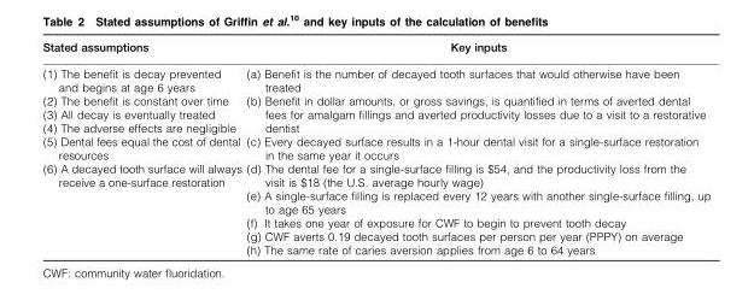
<table><thead><tr><td>Stated assumptions</td><td>Key inputs</td></tr></thead><tbody><tr><td>(1) The benefit is decay prevented and begins at age 6 years</td><td>(a) Benefit is the number of decayed tooth surfaces that would otherwise have been treated</td></tr><tr><td rowspan="2">(2) The benefit is constant over time (3) All decay is eventually treated (4) The adverse effects are negligible (5) Dental fees equal the cost of dental resources (6) A decayed tooth surface will always receive a one-surface restoration</td><td>(b) Benefit in dollar amounts, or gross savings, is quantified in terms of averted dental fees for amalgam fillings and averted productivity losses due to a visit to a restorative dentist (c) Every decayed surface results in a 1-hour dental visit for a single-surface restoration in the same year it occurs (d) The dental fee for a single-surface filling is $54, and the productivity loss from the visit is $18 (the U.S. average hourly wage) (e) A single-surface filling is replaced every 12 years with another single-surface filling, up to age 65 years (f) It takes one year of exposure for CWF to begin to prevent tooth decay (g) CWF averts 0.19 decayed tooth surfaces per person per year (PPPY) on average</td></tr><tr><td>(h) The same rate of caries aversion applies from age 6 to 64 years</td></tr></tbody></table>